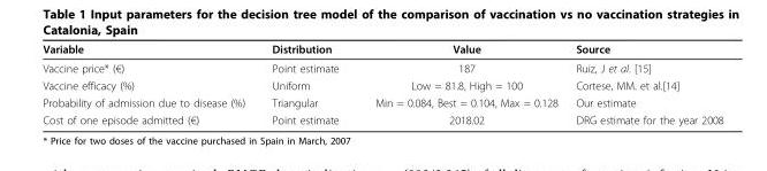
<table><thead><tr><td>Variable</td><td>Distribution</td><td>Value</td><td>Source</td></tr></thead><tbody><tr><td>Vaccine price* (€)</td><td>Point estimate</td><td>187</td><td>Ruiz, J et al. [15]</td></tr><tr><td>Vaccine efficacy (%)</td><td>Uniform</td><td>Low = 81.8, High = 100</td><td>Cortese, MM. et al.[14]</td></tr><tr><td>Probability of admission due to disease (%)</td><td>Triangular</td><td>Min = 0.084, Best = 0.104, Max = 0.128</td><td>Our estimate</td></tr><tr><td>Cost of one episode admitted (€)</td><td>Point estimate</td><td>2018.02</td><td>DRG estimate for the year 2008</td></tr></tbody></table>